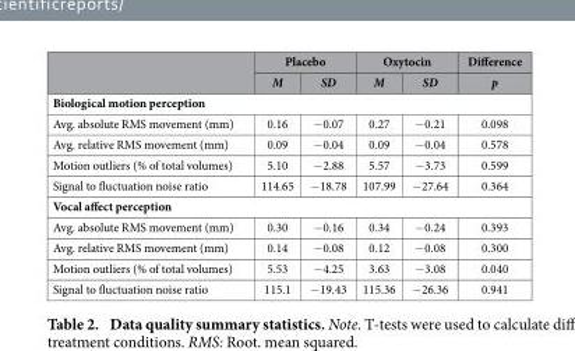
<table><thead><tr><td rowspan="2"></td><td colspan="2">Placebo</td><td colspan="2">Oxytocin</td><td rowspan="2">Difference p</td></tr><tr><td>M</td><td>SD</td><td>M</td><td>SD</td></tr></thead><tbody><tr><td colspan="6">Biological motion perception</td></tr><tr><td>Avg. absolute RMS movement (mm)</td><td>0.16</td><td>− 0.07</td><td>0.27</td><td>− 0.21</td><td>0.098</td></tr><tr><td>Avg. relative RMS movement (mm)</td><td>0.09</td><td>− 0.04</td><td>0.09</td><td>− 0.04</td><td>0.578</td></tr><tr><td>Motion outliers (% of total volumes)</td><td>5.10</td><td>− 2.88</td><td>5.57</td><td>− 3.73</td><td>0.599</td></tr><tr><td>Signal to fluctuation noise ratio</td><td>114.65</td><td>− 18.78</td><td>107.99</td><td>− 27.64</td><td>0.364</td></tr><tr><td colspan="6">Vocal affect perception</td></tr><tr><td>Avg. absolute RMS movement (mm)</td><td>0.30</td><td>− 0.16</td><td>0.34</td><td>− 0.24</td><td>0.393</td></tr><tr><td>Avg. relative RMS movement (mm)</td><td>0.14</td><td>− 0.08</td><td>0.12</td><td>− 0.08</td><td>0.300</td></tr><tr><td>Motion outliers (% of total volumes)</td><td>5.53</td><td>− 4.25</td><td>3.63</td><td>− 3.08</td><td>0.040</td></tr><tr><td>Signal to fluctuation noise ratio</td><td>115.1</td><td>− 19.43</td><td>115.36</td><td>− 26.36</td><td>0.941</td></tr></tbody></table>